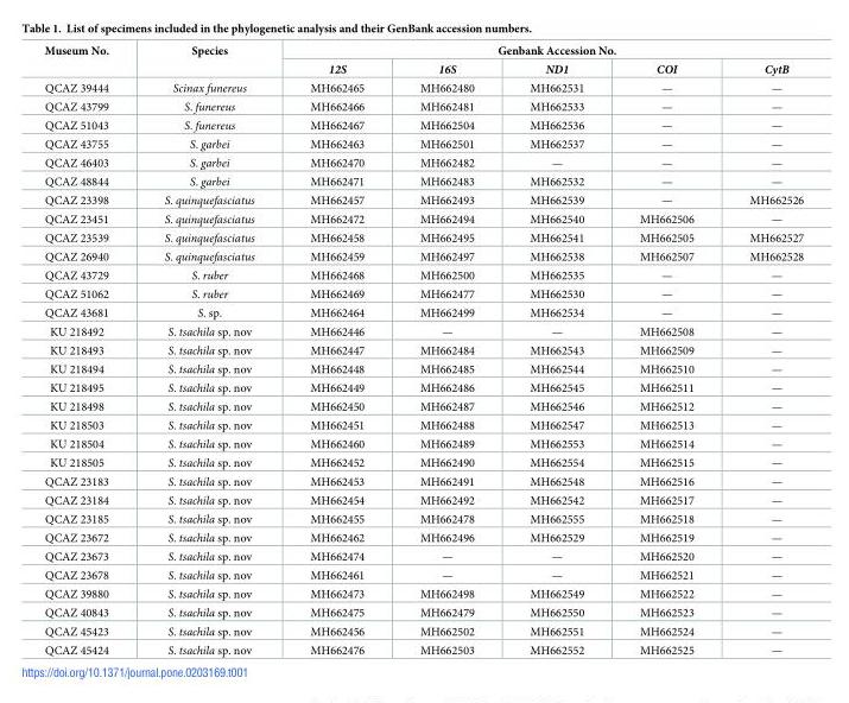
<table><thead><tr><td rowspan="2">Museum No.</td><td rowspan="2">Species</td><td colspan="5">Genbank Accession No.</td></tr><tr><td>12S</td><td>16S</td><td>ND1</td><td>COI</td><td>CytB</td></tr></thead><tbody><tr><td>QCAZ 39444</td><td>Scinax funereus</td><td>MH662465</td><td>MH662480</td><td>MH662531</td><td>—</td><td>—</td></tr><tr><td>QCAZ 43799</td><td>S. funereus</td><td>MH662466</td><td>MH662481</td><td>MH662533</td><td>—</td><td>—</td></tr><tr><td>QCAZ 51043</td><td>S. funereus</td><td>MH662467</td><td>MH662504</td><td>MH662536</td><td>—</td><td>—</td></tr><tr><td>QCAZ 43755</td><td>S. garbei</td><td>MH662463</td><td>MH662501</td><td>MH662537</td><td>—</td><td>—</td></tr><tr><td>QCAZ 46403</td><td>S. garbei</td><td>MH662470</td><td>MH662482</td><td>—</td><td>—</td><td>—</td></tr><tr><td>QCAZ 48844</td><td>S. garbei</td><td>MH662471</td><td>MH662483</td><td>MH662532</td><td>—</td><td>—</td></tr><tr><td>QCAZ 23398</td><td>S. quinquefasciatus</td><td>MH662457</td><td>MH662493</td><td>MH662539</td><td>—</td><td>MH662526</td></tr><tr><td>QCAZ 23451</td><td>S. quinquefasciatus</td><td>MH662472</td><td>MH662494</td><td>MH662540</td><td>MH662506</td><td>—</td></tr><tr><td>QCAZ 23539</td><td>S. quinquefasciatus</td><td>MH662458</td><td>MH662495</td><td>MH662541</td><td>MH662505</td><td>MH662527</td></tr><tr><td>QCAZ 26940</td><td>S. quinquefasciatus</td><td>MH662459</td><td>MH662497</td><td>MH662538</td><td>MH662507</td><td>MH662528</td></tr><tr><td>QCAZ 43729</td><td>S. ruber</td><td>MH662468</td><td>MH662500</td><td>MH662535</td><td>—</td><td>—</td></tr><tr><td>QCAZ 51062</td><td>S. ruber</td><td>MH662469</td><td>MH662477</td><td>MH662530</td><td>—</td><td>—</td></tr><tr><td>QCAZ 43681</td><td>S. sp.</td><td>MH662464</td><td>MH662499</td><td>MH662534</td><td>—</td><td>—</td></tr><tr><td>KU 218492</td><td>S. tsachila sp. nov</td><td>MH662446</td><td>—</td><td>—</td><td>MH662508</td><td>—</td></tr><tr><td>KU 218493</td><td>S. tsachila sp. nov</td><td>MH662447</td><td>MH662484</td><td>MH662543</td><td>MH662509</td><td>—</td></tr><tr><td>KU 218494</td><td>S. tsachila sp. nov</td><td>MH662448</td><td>MH662485</td><td>MH662544</td><td>MH662510</td><td>—</td></tr><tr><td>KU 218495</td><td>S. tsachila sp. nov</td><td>MH662449</td><td>MH662486</td><td>MH662545</td><td>MH662511</td><td>—</td></tr><tr><td>KU 218498</td><td>S. tsachila sp. nov</td><td>MH662450</td><td>MH662487</td><td>MH662546</td><td>MH662512</td><td>—</td></tr><tr><td>KU 218503</td><td>S. tsachila sp. nov</td><td>MH662451</td><td>MH662488</td><td>MH662547</td><td>MH662513</td><td>—</td></tr><tr><td>KU 218504</td><td>S. tsachila sp. nov</td><td>MH662460</td><td>MH662489</td><td>MH662553</td><td>MH662514</td><td>—</td></tr><tr><td>KU 218505</td><td>S. tsachila sp. nov</td><td>MH662452</td><td>MH662490</td><td>MH662554</td><td>MH662515</td><td>—</td></tr><tr><td>QCAZ 23183</td><td>S. tsachila sp. nov</td><td>MH662453</td><td>MH662491</td><td>MH662548</td><td>MH662516</td><td>—</td></tr><tr><td>QCAZ 23184</td><td>S. tsachila sp. nov</td><td>MH662454</td><td>MH662492</td><td>MH662542</td><td>MH662517</td><td>—</td></tr><tr><td>QCAZ 23185</td><td>S. tsachila sp. nov</td><td>MH662455</td><td>MH662478</td><td>MH662555</td><td>MH662518</td><td>—</td></tr><tr><td>QCAZ 23672</td><td>S. tsachila sp. nov</td><td>MH662462</td><td>MH662496</td><td>MH662529</td><td>MH662519</td><td>—</td></tr><tr><td>QCAZ 23673</td><td>S. tsachila sp. nov</td><td>MH662474</td><td>—</td><td>—</td><td>MH662520</td><td>—</td></tr><tr><td>QCAZ 23678</td><td>S. tsachila sp. nov</td><td>MH662461</td><td>—</td><td>—</td><td>MH662521</td><td>—</td></tr><tr><td>QCAZ 39880</td><td>S. tsachila sp. nov</td><td>MH662473</td><td>MH662498</td><td>MH662549</td><td>MH662522</td><td>—</td></tr><tr><td>QCAZ 40843</td><td>S. tsachila sp. nov</td><td>MH662475</td><td>MH662479</td><td>MH662550</td><td>MH662523</td><td>—</td></tr><tr><td>QCAZ 45423</td><td>S. tsachila sp. nov</td><td>MH662456</td><td>MH662502</td><td>MH662551</td><td>MH662524</td><td>—</td></tr><tr><td>QCAZ 45424</td><td>S. tsachila sp. nov</td><td>MH662476</td><td>MH662503</td><td>MH662552</td><td>MH662525</td><td>—</td></tr></tbody></table>